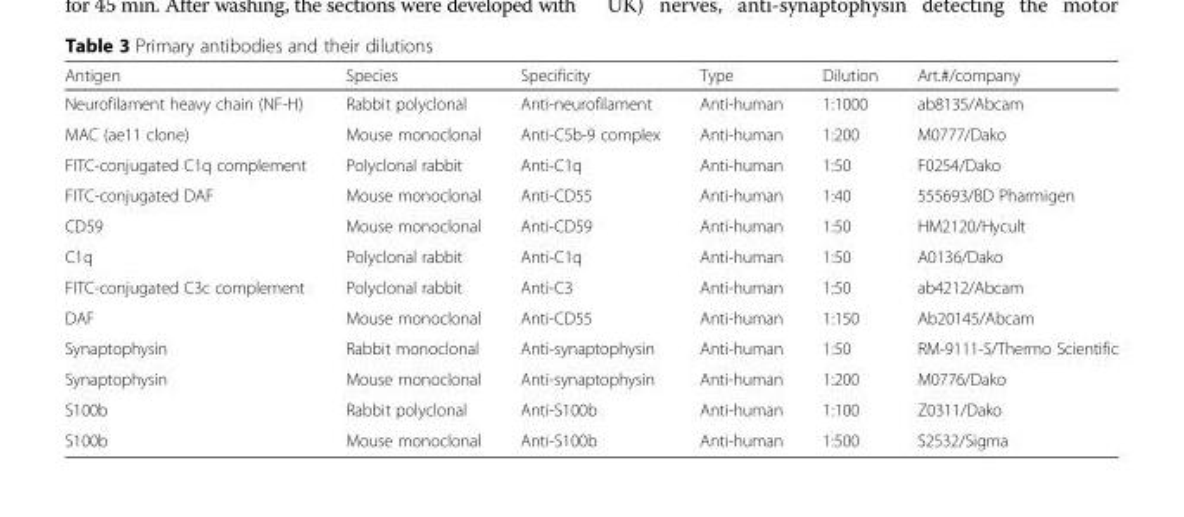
<table><thead><tr><td>Antigen</td><td>Species</td><td>Specificity</td><td>Type</td><td>Dilution</td><td>Art.#/company</td></tr></thead><tbody><tr><td>Neurofilament heavy chain (NF-H)</td><td>Rabbit polyclonal</td><td>Anti-neurofilament</td><td>Anti-human</td><td>1:1000</td><td>ab8135/Abcam</td></tr><tr><td>MAC (ae11 clone)</td><td>Mouse monoclonal</td><td>Anti-C5b-9 complex</td><td>Anti-human</td><td>1:200</td><td>M0777/Dako</td></tr><tr><td>FITC-conjugated C1q complement</td><td>Polyclonal rabbit</td><td>Anti-C1q</td><td>Anti-human</td><td>1:50</td><td>F0254/Dako</td></tr><tr><td>FITC-conjugated DAF</td><td>Mouse monoclonal</td><td>Anti-CD55</td><td>Anti-human</td><td>1:40</td><td>555693/BD Pharmigen</td></tr><tr><td>CD59</td><td>Mouse monoclonal</td><td>Anti-CD59</td><td>Anti-human</td><td>1:50</td><td>HM2120/Hycult</td></tr><tr><td>C1q</td><td>Polyclonal rabbit</td><td>Anti-C1q</td><td>Anti-human</td><td>1:50</td><td>A0136/Dako</td></tr><tr><td>FITC-conjugated C3c complement</td><td>Polyclonal rabbit</td><td>Anti-C3</td><td>Anti-human</td><td>1:50</td><td>ab4212/Abcam</td></tr><tr><td>DAF</td><td>Mouse monoclonal</td><td>Anti-CD55</td><td>Anti-human</td><td>1:150</td><td>Ab20145/Abcam</td></tr><tr><td>Synaptophysin</td><td>Rabbit monoclonal</td><td>Anti-synaptophysin</td><td>Anti-human</td><td>1:50</td><td>RM-9111-S/Thermo Scientific</td></tr><tr><td>Synaptophysin</td><td>Mouse monoclonal</td><td>Anti-synaptophysin</td><td>Anti-human</td><td>1:200</td><td>M0776/Dako</td></tr><tr><td>S100b</td><td>Rabbit polyclonal</td><td>Anti-S100b</td><td>Anti-human</td><td>1:100</td><td>Z0311/Dako</td></tr><tr><td>S100b</td><td>Mouse monoclonal</td><td>Anti-S100b</td><td>Anti-human</td><td>1:500</td><td>S2532/Sigma</td></tr></tbody></table>